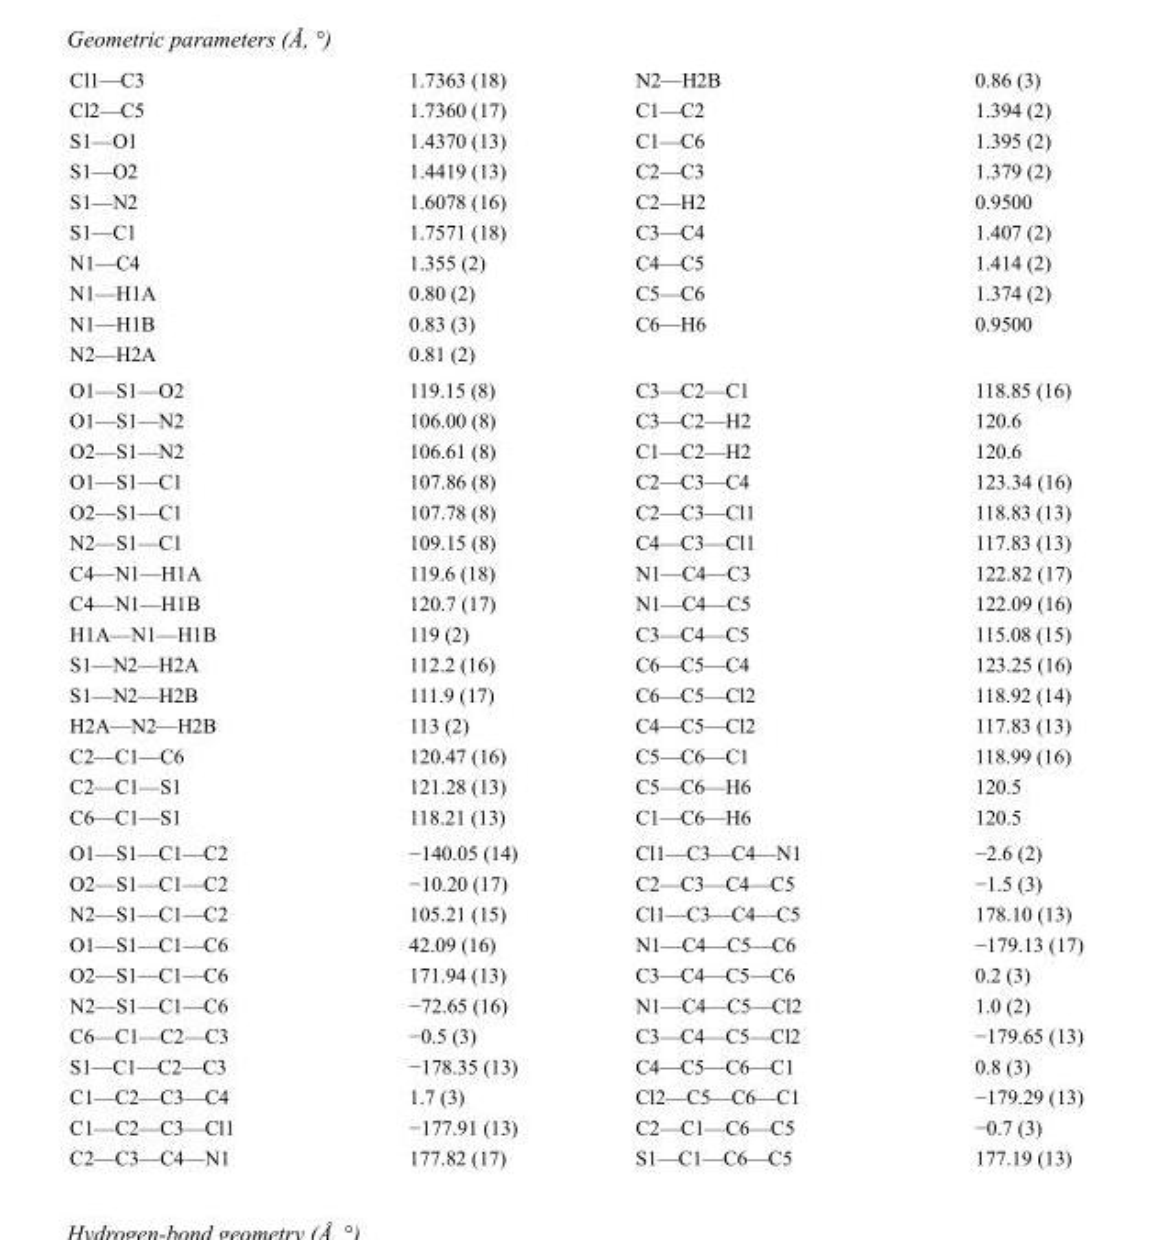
<table><tbody><tr><td>Cl1—C3</td><td>1.7363 (18)</td><td>N2—H2B</td><td>0.86 (3)</td></tr><tr><td>Cl2—C5</td><td>1.7360 (17)</td><td>C1—C2</td><td>1.394 (2)</td></tr><tr><td>S1—O1</td><td>1.4370 (13)</td><td>C1—C6</td><td>1.395 (2)</td></tr><tr><td>S1—O2</td><td>1.4419 (13)</td><td>C2—C3</td><td>1.379 (2)</td></tr><tr><td>S1—N2</td><td>1.6078 (16)</td><td>C2—H2</td><td>0.9500</td></tr><tr><td>S1—C1</td><td>1.7571 (18)</td><td>C3—C4</td><td>1.407 (2)</td></tr><tr><td>N1—C4</td><td>1.355 (2)</td><td>C4—C5</td><td>1.414 (2)</td></tr><tr><td>N1—H1A</td><td>0.80 (2)</td><td>C5—C6</td><td>1.374 (2)</td></tr><tr><td>N1—H1B</td><td>0.83 (3)</td><td>C6—H6</td><td>0.9500</td></tr><tr><td>N2—H2A</td><td>0.81 (2)</td><td></td><td></td></tr><tr><td>O1—S1—O2</td><td>119.15 (8)</td><td>C3—C2—C1</td><td>118.85 (16)</td></tr><tr><td>O1—S1—N2</td><td>106.00 (8)</td><td>C3—C2—H2</td><td>120.6</td></tr><tr><td>O2—S1—N2</td><td>106.61 (8)</td><td>C1—C2—H2</td><td>120.6</td></tr><tr><td>O1—S1—C1</td><td>107.86 (8)</td><td>C2—C3—C4</td><td>123.34 (16)</td></tr><tr><td>O2—S1—C1</td><td>107.78 (8)</td><td>C2—C3—Cl1</td><td>118.83 (13)</td></tr><tr><td>N2—S1—C1</td><td>109.15 (8)</td><td>C4—C3—Cl1</td><td>117.83 (13)</td></tr><tr><td>C4—N1—H1A</td><td>119.6 (18)</td><td>N1—C4—C3</td><td>122.82 (17)</td></tr><tr><td>C4—N1—H1B</td><td>120.7 (17)</td><td>N1—C4—C5</td><td>122.09 (16)</td></tr><tr><td>H1A—N1—H1B</td><td>119 (2)</td><td>C3—C4—C5</td><td>115.08 (15)</td></tr><tr><td>S1—N2—H2A</td><td>112.2 (16)</td><td>C6—C5—C4</td><td>123.25 (16)</td></tr><tr><td>S1—N2—H2B</td><td>111.9 (17)</td><td>C6—C5—Cl2</td><td>118.92 (14)</td></tr><tr><td>H2A—N2—H2B</td><td>113 (2)</td><td>C4—C5—Cl2</td><td>117.83 (13)</td></tr><tr><td>C2—C1—C6</td><td>120.47 (16)</td><td>C5—C6—C1</td><td>118.99 (16)</td></tr><tr><td>C2—C1—S1</td><td>121.28 (13)</td><td>C5—C6—H6</td><td>120.5</td></tr><tr><td>C6—C1—S1</td><td>118.21 (13)</td><td>C1—C6—H6</td><td>120.5</td></tr><tr><td>O1—S1—C1—C2</td><td>−140.05 (14)</td><td>Cl1—C3—C4—N1</td><td>−2.6 (2)</td></tr><tr><td>O2—S1—C1—C2</td><td>−10.20 (17)</td><td>C2—C3—C4—C5</td><td>−1.5 (3)</td></tr><tr><td>N2—S1—C1—C2</td><td>105.21 (15)</td><td>Cl1—C3—C4—C5</td><td>178.10 (13)</td></tr><tr><td>O1—S1—C1—C6</td><td>42.09 (16)</td><td>N1—C4—C5—C6</td><td>−179.13 (17)</td></tr><tr><td>O2—S1—C1—C6</td><td>171.94 (13)</td><td>C3—C4—C5—C6</td><td>0.2 (3)</td></tr><tr><td>N2—S1—C1—C6</td><td>−72.65 (16)</td><td>N1—C4—C5—Cl2</td><td>1.0 (2)</td></tr><tr><td>C6—C1—C2—C3</td><td>−0.5 (3)</td><td>C3—C4—C5—Cl2</td><td>−179.65 (13)</td></tr><tr><td>S1—C1—C2—C3</td><td>−178.35 (13)</td><td>C4—C5—C6—C1</td><td>0.8 (3)</td></tr><tr><td>C1—C2—C3—C4</td><td>1.7 (3)</td><td>Cl2—C5—C6—C1</td><td>−179.29 (13)</td></tr><tr><td>C1—C2—C3—Cl1</td><td>−177.91 (13)</td><td>C2—C1—C6—C5</td><td>−0.7 (3)</td></tr><tr><td>C2—C3—C4—N1</td><td>177.82 (17)</td><td>S1—C1—C6—C5</td><td>177.19 (13)</td></tr></tbody></table>